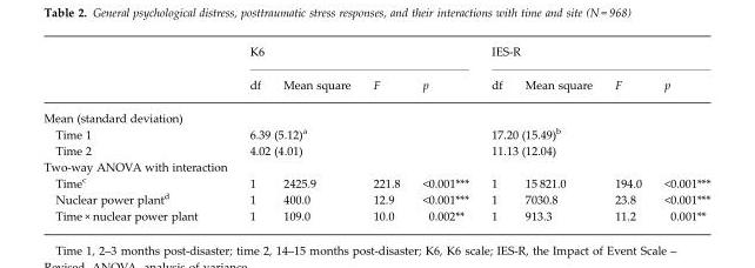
<table><thead><tr><td rowspan="2"></td><td colspan="4">K6</td><td colspan="4">IES-R</td></tr><tr><td>df</td><td>Mean square</td><td>F</td><td>p</td><td>df</td><td>Mean square</td><td>F</td><td>p</td></tr></thead><tbody><tr><td colspan="9">Mean (standard deviation)</td></tr><tr><td>Time 1</td><td colspan="4">6.39 (5.12)<sup>a</sup></td><td colspan="4">17.20 (15.49)<sup>b</sup></td></tr><tr><td>Time 2</td><td colspan="4">4.02 (4.01)</td><td colspan="4">11.13 (12.04)</td></tr><tr><td colspan="9">Two-way ANOVA with interaction</td></tr><tr><td>Time<sup>c</sup></td><td>1</td><td>2425.9</td><td>221.8</td><td>&lt;0.001***</td><td>1</td><td>15 821.0</td><td>194.0</td><td>&lt;0.001***</td></tr><tr><td>Nuclear power plant<sup>d</sup></td><td>1</td><td>400.0</td><td>12.9</td><td>&lt;0.001***</td><td>1</td><td>7030.8</td><td>23.8</td><td>&lt;0.001***</td></tr><tr><td>Time × nuclear power plant</td><td>1</td><td>109.0</td><td>10.0</td><td>0.002**</td><td>1</td><td>913.3</td><td>11.2</td><td>0.001**</td></tr></tbody></table>